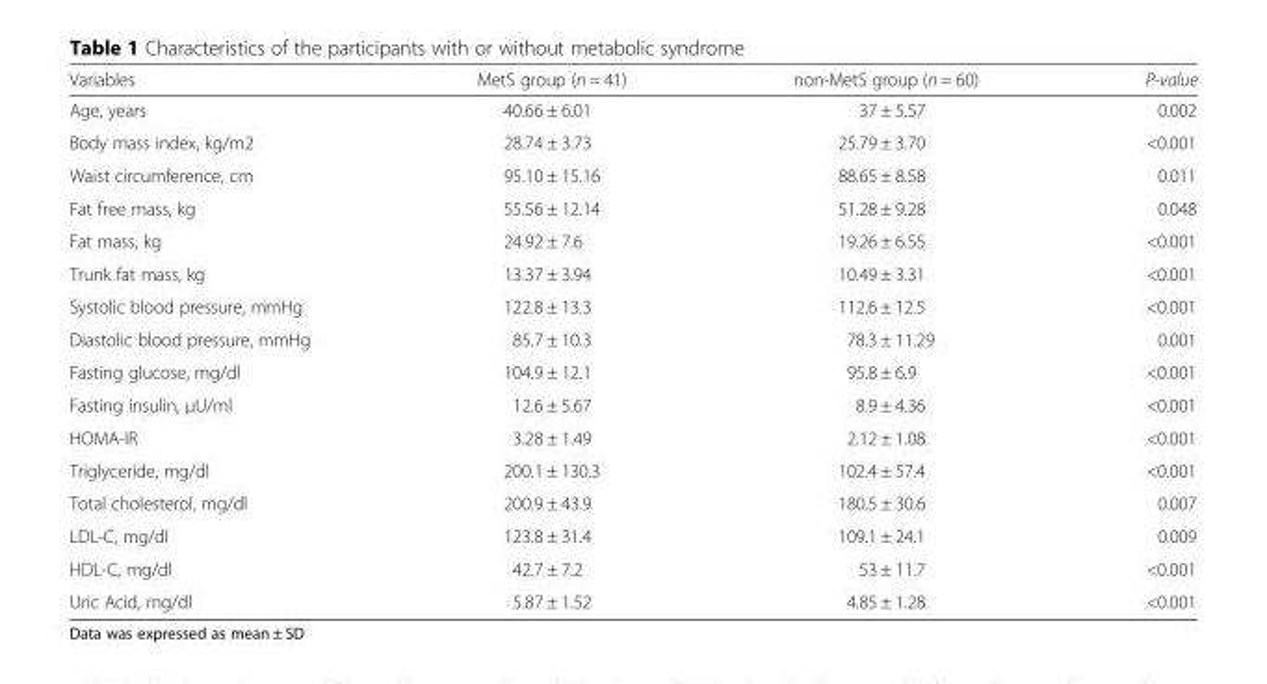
<table><thead><tr><td>Variables</td><td>MetS group (n = 41)</td><td>non-MetS group (n = 60)</td><td>P-value</td></tr></thead><tbody><tr><td>Age, years</td><td>40.66 ± 6.01</td><td>37 ± 5.57</td><td>0.002</td></tr><tr><td>Body mass index, kg/m2</td><td>28.74 ± 3.73</td><td>25.79 ± 3.70</td><td>&lt;0.001</td></tr><tr><td>Waist circumference, cm</td><td>95.10 ± 15.16</td><td>88.65 ± 8.58</td><td>0.011</td></tr><tr><td>Fat free mass, kg</td><td>55.56 ± 12.14</td><td>51.28 ± 9.28</td><td>0.048</td></tr><tr><td>Fat mass, kg</td><td>24.92 ± 7.6</td><td>19.26 ± 6.55</td><td>&lt;0.001</td></tr><tr><td>Trunk fat mass, kg</td><td>13.37 ± 3.94</td><td>10.49 ± 3.31</td><td>&lt;0.001</td></tr><tr><td>Systolic blood pressure, mmHg</td><td>122.8 ± 13.3</td><td>112.6 ± 12.5</td><td>&lt;0.001</td></tr><tr><td>Diastolic blood pressure, mmHg</td><td>85.7 ± 10.3</td><td>78.3 ± 11.29</td><td>0.001</td></tr><tr><td>Fasting glucose, mg/dl</td><td>104.9 ± 12.1</td><td>95.8 ± 6.9</td><td>&lt;0.001</td></tr><tr><td>Fasting insulin, μU/ml</td><td>12.6 ± 5.67</td><td>8.9 ± 4.36</td><td>&lt;0.001</td></tr><tr><td>HOMA-IR</td><td>3.28 ± 1.49</td><td>2.12 ± 1.08</td><td>&lt;0.001</td></tr><tr><td>Triglyceride, mg/dl</td><td>200.1 ± 130.3</td><td>102.4 ± 57.4</td><td>&lt;0.001</td></tr><tr><td>Total cholesterol, mg/dl</td><td>200.9 ± 43.9</td><td>180.5 ± 30.6</td><td>0.007</td></tr><tr><td>LDL-C, mg/dl</td><td>123.8 ± 31.4</td><td>109.1 ± 24.1</td><td>0.009</td></tr><tr><td>HDL-C, mg/dl</td><td>42.7 ± 7.2</td><td>53 ± 11.7</td><td>&lt;0.001</td></tr><tr><td>Uric Acid, mg/dl</td><td>5.87 ± 1.52</td><td>4.85 ± 1.28</td><td>&lt;0.001</td></tr></tbody></table>